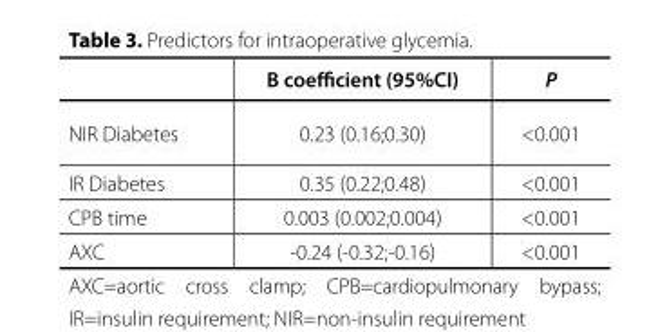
<table><thead><tr><td></td><td>B coefficient (95%CI)</td><td>P</td></tr></thead><tbody><tr><td>NIR Diabetes</td><td>0.23 (0.16;0.30)</td><td>&lt;0.001</td></tr><tr><td>IR Diabetes</td><td>0.35 (0.22;0.48)</td><td>&lt;0.001</td></tr><tr><td>CPB time</td><td>0.003 (0.002;0.004)</td><td>&lt;0.001</td></tr><tr><td>AXC</td><td>-0.24 (-0.32;-0.16)</td><td>&lt;0.001</td></tr></tbody></table>